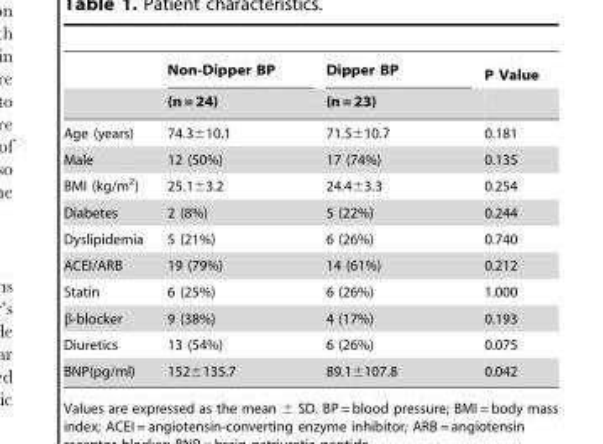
<table><thead><tr><td rowspan="2"></td><td rowspan="2">Non-Dipper BP (n = 24)</td><td rowspan="2">Dipper BP (n = 23)</td><td rowspan="2">P Value</td></tr><tr></tr></thead><tbody><tr><td>Age (years)</td><td>74.3±10.1</td><td>71.5±10.7</td><td>0.181</td></tr><tr><td>Male</td><td>12 (50%)</td><td>17 (74%)</td><td>0.135</td></tr><tr><td>BMI (kg/m<sup>2</sup>)</td><td>25.1±3.2</td><td>24.4±3.3</td><td>0.254</td></tr><tr><td>Diabetes</td><td>2 (8%)</td><td>5 (22%)</td><td>0.244</td></tr><tr><td>Dyslipidemia</td><td>5 (21%)</td><td>6 (26%)</td><td>0.740</td></tr><tr><td>ACEI/ARB</td><td>19 (79%)</td><td>14 (61%)</td><td>0.212</td></tr><tr><td>Statin</td><td>6 (25%)</td><td>6 (26%)</td><td>1.000</td></tr><tr><td>β-blocker</td><td>9 (38%)</td><td>4 (17%)</td><td>0.193</td></tr><tr><td>Diuretics</td><td>13 (54%)</td><td>6 (26%)</td><td>0.075</td></tr><tr><td>BNP(pg/ml)</td><td>152±135.7</td><td>89.1±107.8</td><td>0.042</td></tr></tbody></table>